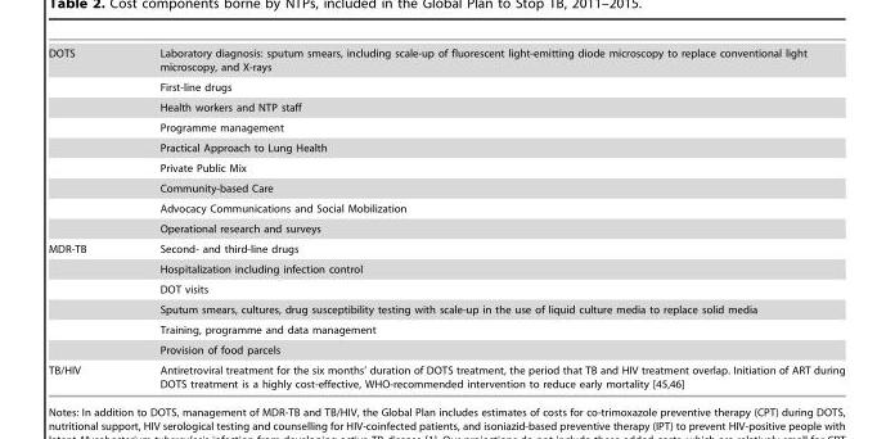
<table><tbody><tr><td rowspan="9">DOTS</td><td>Laboratory diagnosis: sputum smears, including scale-up of fluorescent light-emitting diode microscopy to replace conventional light microscopy, and X-rays</td></tr><tr><td>First-line drugs</td></tr><tr><td>Health workers and NTP staff</td></tr><tr><td>Programme management</td></tr><tr><td>Practical Approach to Lung Health</td></tr><tr><td>Private Public Mix</td></tr><tr><td>Community-based Care</td></tr><tr><td>Advocacy Communications and Social Mobilization</td></tr><tr><td>Operational research and surveys</td></tr><tr><td rowspan="6">MDR-TB</td><td>Second- and third-line drugs</td></tr><tr><td>Hospitalization including infection control</td></tr><tr><td>DOT visits</td></tr><tr><td>Sputum smears, cultures, drug susceptibility testing with scale-up in the use of liquid culture media to replace solid media</td></tr><tr><td>Training, programme and data management</td></tr><tr><td>Provision of food parcels</td></tr><tr><td>TB/HIV</td><td>Antiretroviral treatment for the six months’ duration of DOTS treatment, the period that TB and HIV treatment overlap. Initiation of ART during DOTS treatment is a highly cost-effective, WHO-recommended intervention to reduce early mortality [45,46]</td></tr></tbody></table>